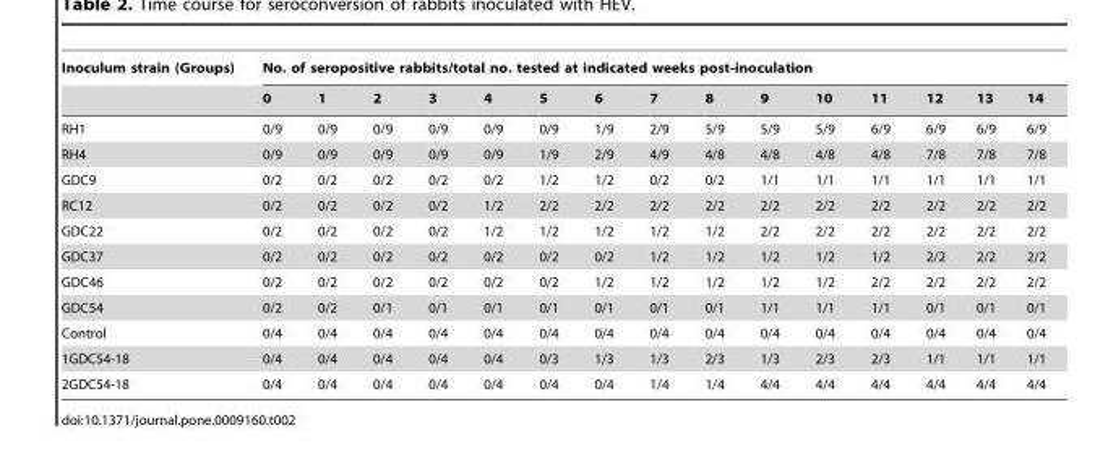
<table><thead><tr><td rowspan="2">Inoculum strain (Groups)</td><td colspan="15">No. of seropositive rabbits/total no. tested at indicated weeks post-inoculation</td></tr><tr><td>0</td><td>1</td><td>2</td><td>3</td><td>4</td><td>5</td><td>6</td><td>7</td><td>8</td><td>9</td><td>10</td><td>11</td><td>12</td><td>13</td><td>14</td></tr></thead><tbody><tr><td>RH1</td><td>0/9</td><td>0/9</td><td>0/9</td><td>0/9</td><td>0/9</td><td>0/9</td><td>1/9</td><td>2/9</td><td>5/9</td><td>5/9</td><td>5/9</td><td>6/9</td><td>6/9</td><td>6/9</td><td>6/9</td></tr><tr><td>RH4</td><td>0/9</td><td>0/9</td><td>0/9</td><td>0/9</td><td>0/9</td><td>1/9</td><td>2/9</td><td>4/9</td><td>4/8</td><td>4/8</td><td>4/8</td><td>4/8</td><td>7/8</td><td>7/8</td><td>7/8</td></tr><tr><td>GDC9</td><td>0/2</td><td>0/2</td><td>0/2</td><td>0/2</td><td>0/2</td><td>1/2</td><td>1/2</td><td>0/2</td><td>0/2</td><td>1/1</td><td>1/1</td><td>1/1</td><td>1/1</td><td>1/1</td><td>1/1</td></tr><tr><td>RC12</td><td>0/2</td><td>0/2</td><td>0/2</td><td>0/2</td><td>1/2</td><td>2/2</td><td>2/2</td><td>2/2</td><td>2/2</td><td>2/2</td><td>2/2</td><td>2/2</td><td>2/2</td><td>2/2</td><td>2/2</td></tr><tr><td>GDC22</td><td>0/2</td><td>0/2</td><td>0/2</td><td>0/2</td><td>1/2</td><td>1/2</td><td>1/2</td><td>1/2</td><td>1/2</td><td>2/2</td><td>2/2</td><td>2/2</td><td>2/2</td><td>2/2</td><td>2/2</td></tr><tr><td>GDC37</td><td>0/2</td><td>0/2</td><td>0/2</td><td>0/2</td><td>0/2</td><td>0/2</td><td>0/2</td><td>1/2</td><td>1/2</td><td>1/2</td><td>1/2</td><td>1/2</td><td>2/2</td><td>2/2</td><td>2/2</td></tr><tr><td>GDC46</td><td>0/2</td><td>0/2</td><td>0/2</td><td>0/2</td><td>0/2</td><td>0/2</td><td>1/2</td><td>1/2</td><td>1/2</td><td>1/2</td><td>1/2</td><td>2/2</td><td>2/2</td><td>2/2</td><td>2/2</td></tr><tr><td>GDC54</td><td>0/2</td><td>0/2</td><td>0/1</td><td>0/1</td><td>0/1</td><td>0/1</td><td>0/1</td><td>0/1</td><td>0/1</td><td>1/1</td><td>1/1</td><td>1/1</td><td>0/1</td><td>0/1</td><td>0/1</td></tr><tr><td>Control</td><td>0/4</td><td>0/4</td><td>0/4</td><td>0/4</td><td>0/4</td><td>0/4</td><td>0/4</td><td>0/4</td><td>0/4</td><td>0/4</td><td>0/4</td><td>0/4</td><td>0/4</td><td>0/4</td><td>0/4</td></tr><tr><td>1GDC54-18</td><td>0/4</td><td>0/4</td><td>0/4</td><td>0/4</td><td>0/4</td><td>0/3</td><td>1/3</td><td>1/3</td><td>2/3</td><td>1/3</td><td>2/3</td><td>2/3</td><td>1/1</td><td>1/1</td><td>1/1</td></tr><tr><td>2GDC54-18</td><td>0/4</td><td>0/4</td><td>0/4</td><td>0/4</td><td>0/4</td><td>0/4</td><td>0/4</td><td>1/4</td><td>1/4</td><td>4/4</td><td>4/4</td><td>4/4</td><td>4/4</td><td>4/4</td><td>4/4</td></tr></tbody></table>